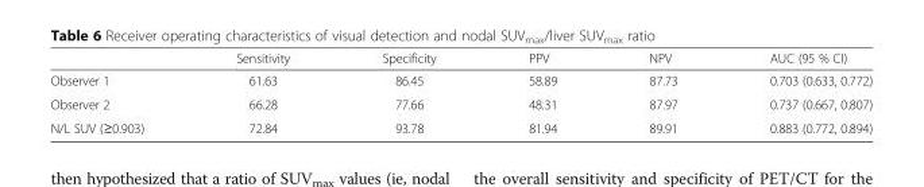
<table><thead><tr><td></td><td>Sensitivity</td><td>Specificity</td><td>PPV</td><td>NPV</td><td>AUC (95 % CI)</td></tr></thead><tbody><tr><td>Observer 1</td><td>61.63</td><td>86.45</td><td>58.89</td><td>87.73</td><td>0.703 (0.633, 0.772)</td></tr><tr><td>Observer 2</td><td>66.28</td><td>77.66</td><td>48.31</td><td>87.97</td><td>0.737 (0.667, 0.807)</td></tr><tr><td>N/L SUV (≥0.903)</td><td>72.84</td><td>93.78</td><td>81.94</td><td>89.91</td><td>0.883 (0.772, 0.894)</td></tr></tbody></table>